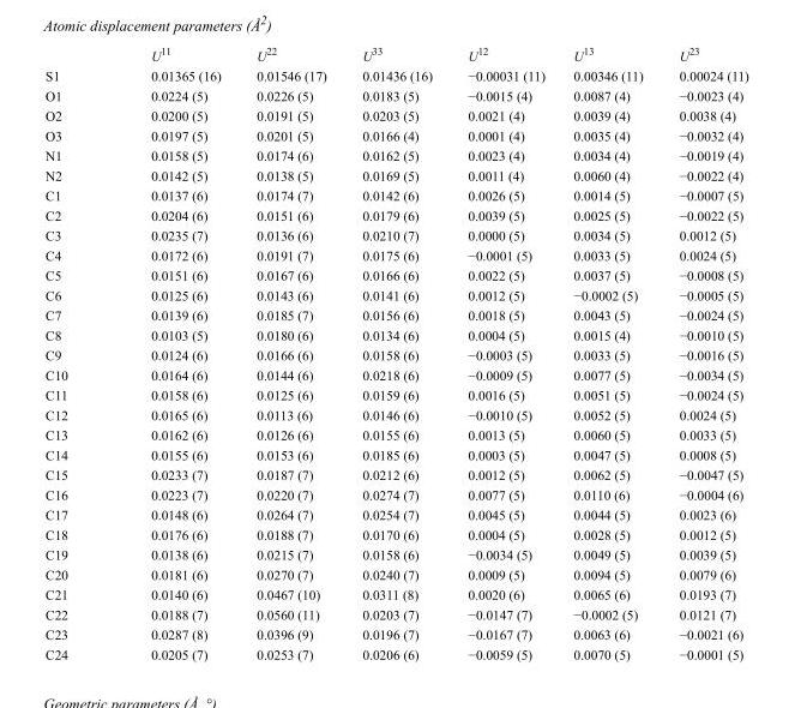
<table><thead><tr><td></td><td>U<sup>11</sup></td><td>U<sup>22</sup></td><td>U<sup>33</sup></td><td>U<sup>12</sup></td><td>U<sup>13</sup></td><td>U<sup>23</sup></td></tr></thead><tbody><tr><td>S1</td><td>0.01365 (16)</td><td>0.01546 (17)</td><td>0.01436 (16)</td><td>−0.00031 (11)</td><td>0.00346 (11)</td><td>0.00024 (11)</td></tr><tr><td>O1</td><td>0.0224 (5)</td><td>0.0226 (5)</td><td>0.0183 (5)</td><td>−0.0015 (4)</td><td>0.0087 (4)</td><td>−0.0023 (4)</td></tr><tr><td>O2</td><td>0.0200 (5)</td><td>0.0191 (5)</td><td>0.0203 (5)</td><td>0.0021 (4)</td><td>0.0039 (4)</td><td>0.0038 (4)</td></tr><tr><td>O3</td><td>0.0197 (5)</td><td>0.0201 (5)</td><td>0.0166 (4)</td><td>0.0001 (4)</td><td>0.0035 (4)</td><td>−0.0032 (4)</td></tr><tr><td>N1</td><td>0.0158 (5)</td><td>0.0174 (6)</td><td>0.0162 (5)</td><td>0.0023 (4)</td><td>0.0034 (4)</td><td>−0.0019 (4)</td></tr><tr><td>N2</td><td>0.0142 (5)</td><td>0.0138 (5)</td><td>0.0169 (5)</td><td>0.0011 (4)</td><td>0.0060 (4)</td><td>−0.0022 (4)</td></tr><tr><td>C1</td><td>0.0137 (6)</td><td>0.0174 (7)</td><td>0.0142 (6)</td><td>0.0026 (5)</td><td>0.0014 (5)</td><td>−0.0007 (5)</td></tr><tr><td>C2</td><td>0.0204 (6)</td><td>0.0151 (6)</td><td>0.0179 (6)</td><td>0.0039 (5)</td><td>0.0025 (5)</td><td>−0.0022 (5)</td></tr><tr><td>C3</td><td>0.0235 (7)</td><td>0.0136 (6)</td><td>0.0210 (7)</td><td>0.0000 (5)</td><td>0.0034 (5)</td><td>0.0012 (5)</td></tr><tr><td>C4</td><td>0.0172 (6)</td><td>0.0191 (7)</td><td>0.0175 (6)</td><td>−0.0001 (5)</td><td>0.0033 (5)</td><td>0.0024 (5)</td></tr><tr><td>C5</td><td>0.0151 (6)</td><td>0.0167 (6)</td><td>0.0166 (6)</td><td>0.0022 (5)</td><td>0.0037 (5)</td><td>−0.0008 (5)</td></tr><tr><td>C6</td><td>0.0125 (6)</td><td>0.0143 (6)</td><td>0.0141 (6)</td><td>0.0012 (5)</td><td>−0.0002 (5)</td><td>−0.0005 (5)</td></tr><tr><td>C7</td><td>0.0139 (6)</td><td>0.0185 (7)</td><td>0.0156 (6)</td><td>0.0018 (5)</td><td>0.0043 (5)</td><td>−0.0024 (5)</td></tr><tr><td>C8</td><td>0.0103 (5)</td><td>0.0180 (6)</td><td>0.0134 (6)</td><td>0.0004 (5)</td><td>0.0015 (4)</td><td>−0.0010 (5)</td></tr><tr><td>C9</td><td>0.0124 (6)</td><td>0.0166 (6)</td><td>0.0158 (6)</td><td>−0.0003 (5)</td><td>0.0033 (5)</td><td>−0.0016 (5)</td></tr><tr><td>C10</td><td>0.0164 (6)</td><td>0.0144 (6)</td><td>0.0218 (6)</td><td>−0.0009 (5)</td><td>0.0077 (5)</td><td>−0.0034 (5)</td></tr><tr><td>C11</td><td>0.0158 (6)</td><td>0.0125 (6)</td><td>0.0159 (6)</td><td>0.0016 (5)</td><td>0.0051 (5)</td><td>−0.0024 (5)</td></tr><tr><td>C12</td><td>0.0165 (6)</td><td>0.0113 (6)</td><td>0.0146 (6)</td><td>−0.0010 (5)</td><td>0.0052 (5)</td><td>0.0024 (5)</td></tr><tr><td>C13</td><td>0.0162 (6)</td><td>0.0126 (6)</td><td>0.0155 (6)</td><td>0.0013 (5)</td><td>0.0060 (5)</td><td>0.0033 (5)</td></tr><tr><td>C14</td><td>0.0155 (6)</td><td>0.0153 (6)</td><td>0.0185 (6)</td><td>0.0003 (5)</td><td>0.0047 (5)</td><td>0.0008 (5)</td></tr><tr><td>C15</td><td>0.0233 (7)</td><td>0.0187 (7)</td><td>0.0212 (6)</td><td>0.0012 (5)</td><td>0.0062 (5)</td><td>−0.0047 (5)</td></tr><tr><td>C16</td><td>0.0223 (7)</td><td>0.0220 (7)</td><td>0.0274 (7)</td><td>0.0077 (5)</td><td>0.0110 (6)</td><td>−0.0004 (6)</td></tr><tr><td>C17</td><td>0.0148 (6)</td><td>0.0264 (7)</td><td>0.0254 (7)</td><td>0.0045 (5)</td><td>0.0044 (5)</td><td>0.0023 (6)</td></tr><tr><td>C18</td><td>0.0176 (6)</td><td>0.0188 (7)</td><td>0.0170 (6)</td><td>0.0004 (5)</td><td>0.0028 (5)</td><td>0.0012 (5)</td></tr><tr><td>C19</td><td>0.0138 (6)</td><td>0.0215 (7)</td><td>0.0158 (6)</td><td>−0.0034 (5)</td><td>0.0049 (5)</td><td>0.0039 (5)</td></tr><tr><td>C20</td><td>0.0181 (6)</td><td>0.0270 (7)</td><td>0.0240 (7)</td><td>0.0009 (5)</td><td>0.0094 (5)</td><td>0.0079 (6)</td></tr><tr><td>C21</td><td>0.0140 (6)</td><td>0.0467 (10)</td><td>0.0311 (8)</td><td>0.0020 (6)</td><td>0.0065 (6)</td><td>0.0193 (7)</td></tr><tr><td>C22</td><td>0.0188 (7)</td><td>0.0560 (11)</td><td>0.0203 (7)</td><td>−0.0147 (7)</td><td>−0.0002 (5)</td><td>0.0121 (7)</td></tr><tr><td>C23</td><td>0.0287 (8)</td><td>0.0396 (9)</td><td>0.0196 (7)</td><td>−0.0167 (7)</td><td>0.0063 (6)</td><td>−0.0021 (6)</td></tr><tr><td>C24</td><td>0.0205 (7)</td><td>0.0253 (7)</td><td>0.0206 (6)</td><td>−0.0059 (5)</td><td>0.0070 (5)</td><td>−0.0001 (5)</td></tr></tbody></table>